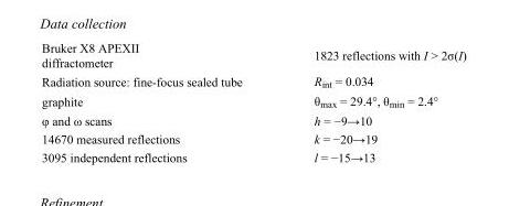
<table><tbody><tr><td>Bruker X8 APEXII diffractometer</td><td>1823 reflections with I &gt; 2σ(I)</td></tr><tr><td>Radiation source: fine-focus sealed tube</td><td>R<sub>int</sub> = 0.034</td></tr><tr><td>graphite</td><td>θ<sub>max</sub> = 29.4°, θ<sub>min</sub> = 2.4°</td></tr><tr><td>φ and ω scans</td><td>h = −9→10</td></tr><tr><td>14670 measured reflections</td><td>k = −20→19</td></tr><tr><td>3095 independent reflections</td><td>l = −15→13</td></tr></tbody></table>